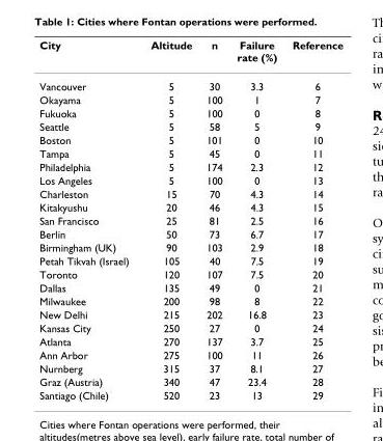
<table><thead><tr><td>City</td><td>Altitude</td><td>n</td><td>Failure rate (%)</td><td>Reference</td></tr></thead><tbody><tr><td>Vancouver</td><td>5</td><td>30</td><td>3.3</td><td>6</td></tr><tr><td>Okayama</td><td>5</td><td>100</td><td>1</td><td>7</td></tr><tr><td>Fukuoka</td><td>5</td><td>100</td><td>0</td><td>8</td></tr><tr><td>Seattle</td><td>5</td><td>58</td><td>5</td><td>9</td></tr><tr><td>Boston</td><td>5</td><td>101</td><td>0</td><td>10</td></tr><tr><td>Tampa</td><td>5</td><td>45</td><td>0</td><td>11</td></tr><tr><td>Philadelphia</td><td>5</td><td>174</td><td>2.3</td><td>12</td></tr><tr><td>Los Angeles</td><td>5</td><td>100</td><td>0</td><td>13</td></tr><tr><td>Charleston</td><td>15</td><td>70</td><td>4.3</td><td>14</td></tr><tr><td>Kitakyushu</td><td>20</td><td>46</td><td>4.3</td><td>15</td></tr><tr><td>San Francisco</td><td>25</td><td>81</td><td>2.5</td><td>16</td></tr><tr><td>Berlin</td><td>50</td><td>73</td><td>6.7</td><td>17</td></tr><tr><td>Birmingham (UK)</td><td>90</td><td>103</td><td>2.9</td><td>18</td></tr><tr><td>Petah Tikvah (Israel)</td><td>105</td><td>40</td><td>7.5</td><td>19</td></tr><tr><td>Toronto</td><td>120</td><td>107</td><td>7.5</td><td>20</td></tr><tr><td>Dallas</td><td>135</td><td>49</td><td>0</td><td>21</td></tr><tr><td>Milwaukee</td><td>200</td><td>98</td><td>8</td><td>22</td></tr><tr><td>New Delhi</td><td>215</td><td>202</td><td>16.8</td><td>23</td></tr><tr><td>Kansas City</td><td>250</td><td>27</td><td>0</td><td>24</td></tr><tr><td>Atlanta</td><td>270</td><td>137</td><td>3.7</td><td>25</td></tr><tr><td>Ann Arbor</td><td>275</td><td>100</td><td>11</td><td>26</td></tr><tr><td>Nurnberg</td><td>315</td><td>37</td><td>8.1</td><td>27</td></tr><tr><td>Graz (Austria)</td><td>340</td><td>47</td><td>23.4</td><td>28</td></tr><tr><td>Santiago (Chile)</td><td>520</td><td>23</td><td>13</td><td>29</td></tr></tbody></table>